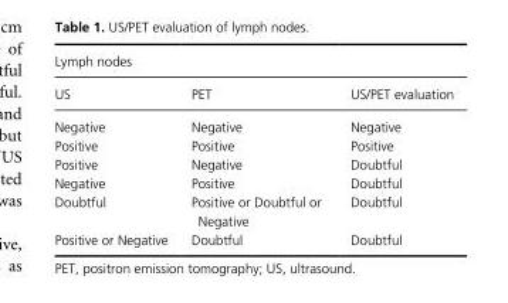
<table><thead><tr><td colspan="3">Lymph nodes</td></tr><tr><td>US</td><td>PET</td><td>US/PET evaluation</td></tr></thead><tbody><tr><td>Negative</td><td>Negative</td><td>Negative</td></tr><tr><td>Positive</td><td>Positive</td><td>Positive</td></tr><tr><td>Positive</td><td>Negative</td><td>Doubtful</td></tr><tr><td>Negative</td><td>Positive</td><td>Doubtful</td></tr><tr><td>Doubtful</td><td>Positive or Doubtful or Negative</td><td>Doubtful</td></tr><tr><td>Positive or Negative</td><td>Doubtful</td><td>Doubtful</td></tr></tbody></table>